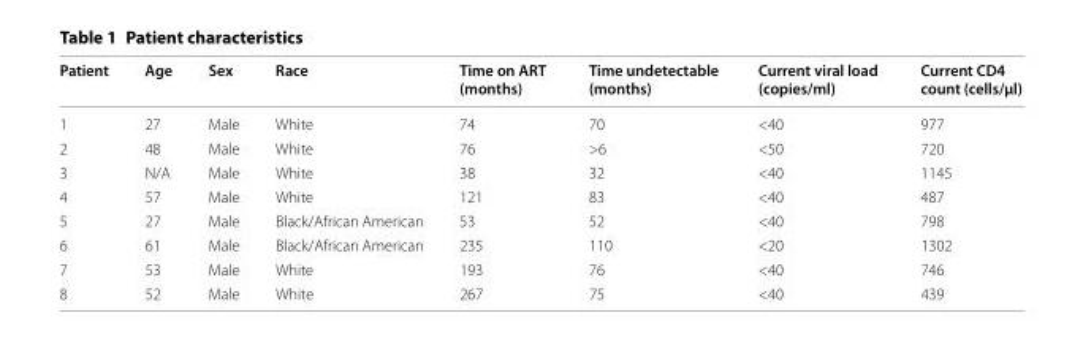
<table><thead><tr><td>Patient</td><td>Age</td><td>Sex</td><td>Race</td><td>Time on ART (months)</td><td>Time undetectable (months)</td><td>Current viral load (copies/ml)</td><td>Current CD4 count (cells/µl)</td></tr></thead><tbody><tr><td>1</td><td>27</td><td>Male</td><td>White</td><td>74</td><td>70</td><td>&lt;40</td><td>977</td></tr><tr><td>2</td><td>48</td><td>Male</td><td>White</td><td>76</td><td>&gt;6</td><td>&lt;50</td><td>720</td></tr><tr><td>3</td><td>N/A</td><td>Male</td><td>White</td><td>38</td><td>32</td><td>&lt;40</td><td>1145</td></tr><tr><td>4</td><td>57</td><td>Male</td><td>White</td><td>121</td><td>83</td><td>&lt;40</td><td>487</td></tr><tr><td>5</td><td>27</td><td>Male</td><td>Black/African American</td><td>53</td><td>52</td><td>&lt;40</td><td>798</td></tr><tr><td>6</td><td>61</td><td>Male</td><td>Black/African American</td><td>235</td><td>110</td><td>&lt;20</td><td>1302</td></tr><tr><td>7</td><td>53</td><td>Male</td><td>White</td><td>193</td><td>76</td><td>&lt;40</td><td>746</td></tr><tr><td>8</td><td>52</td><td>Male</td><td>White</td><td>267</td><td>75</td><td>&lt;40</td><td>439</td></tr></tbody></table>